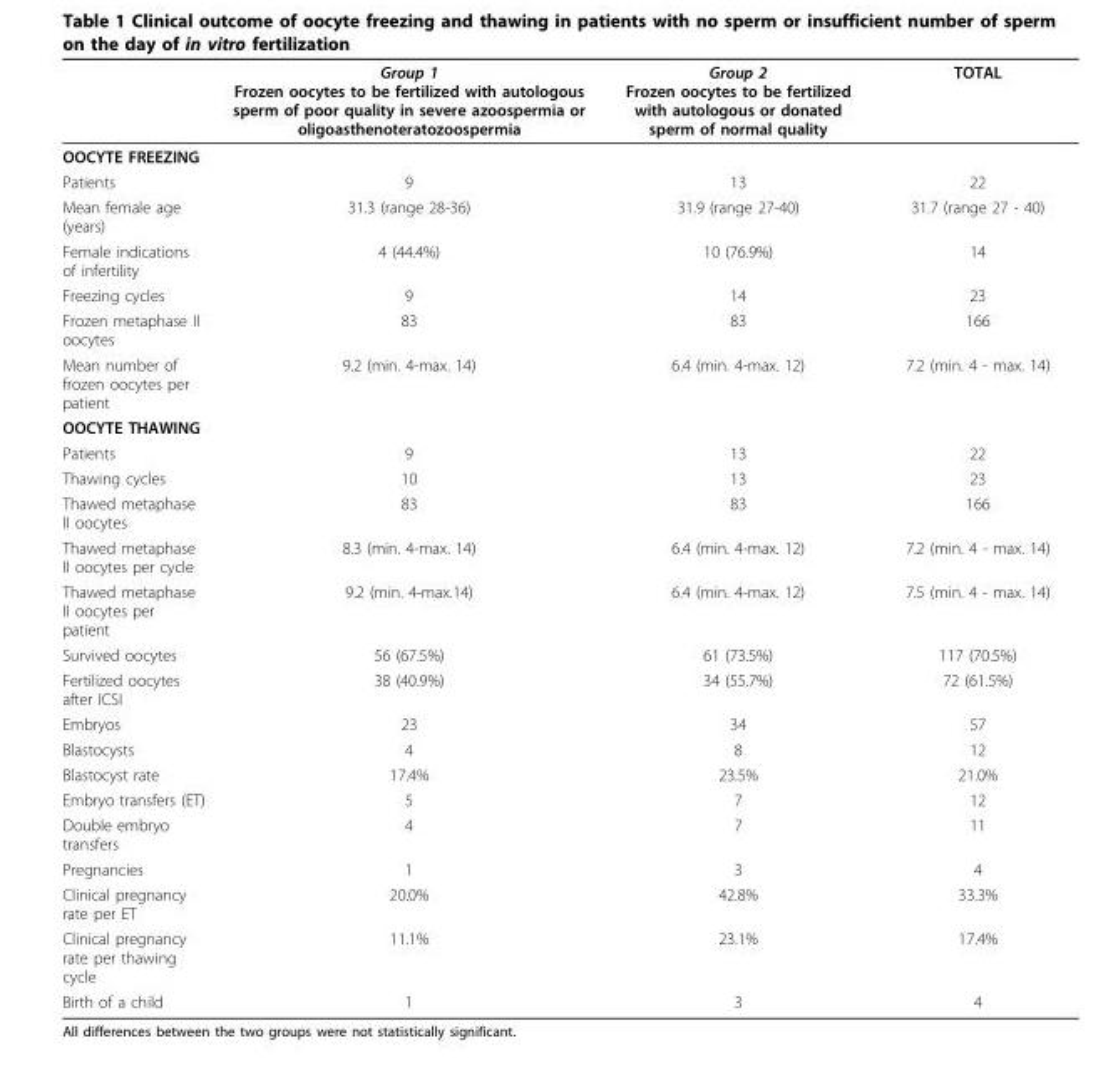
<table><thead><tr><td></td><td>Group 1 Frozen oocytes to be fertilized with autologous sperm of poor quality in severe azoospermia or oligoasthenoteratozoospermia</td><td>Group 2 Frozen oocytes to be fertilized with autologous or donated sperm of normal quality</td><td>TOTAL</td></tr></thead><tbody><tr><td colspan="4">OOCYTE FREEZING</td></tr><tr><td>Patients</td><td>9</td><td>13</td><td>22</td></tr><tr><td>Mean female age (years)</td><td>31.3 (range 28-36)</td><td>31.9 (range 27-40)</td><td>31.7 (range 27 - 40)</td></tr><tr><td>Female indications of infertility</td><td>4 (44.4%)</td><td>10 (76.9%)</td><td>14</td></tr><tr><td>Freezing cycles</td><td>9</td><td>14</td><td>23</td></tr><tr><td>Frozen metaphase II oocytes</td><td>83</td><td>83</td><td>166</td></tr><tr><td>Mean number of frozen oocytes per patient</td><td>9.2 (min. 4-max. 14)</td><td>6.4 (min. 4-max. 12)</td><td>7.2 (min. 4 - max. 14)</td></tr><tr><td colspan="4">OOCYTE THAWING</td></tr><tr><td>Patients</td><td>9</td><td>13</td><td>22</td></tr><tr><td>Thawing cycles</td><td>10</td><td>13</td><td>23</td></tr><tr><td>Thawed metaphase II oocytes</td><td>83</td><td>83</td><td>166</td></tr><tr><td>Thawed metaphase II oocytes per cycle</td><td>8.3 (min. 4-max. 14)</td><td>6.4 (min. 4-max. 12)</td><td>7.2 (min. 4 - max. 14)</td></tr><tr><td>Thawed metaphase II oocytes per patient</td><td>9.2 (min. 4-max.14)</td><td>6.4 (min. 4-max. 12)</td><td>7.5 (min. 4 - max. 14)</td></tr><tr><td>Survived oocytes</td><td>56 (67.5%)</td><td>61 (73.5%)</td><td>117 (70.5%)</td></tr><tr><td>Fertilized oocytes after ICSI</td><td>38 (40.9%)</td><td>34 (55.7%)</td><td>72 (61.5%)</td></tr><tr><td>Embryos</td><td>23</td><td>34</td><td>57</td></tr><tr><td>Blastocysts</td><td>4</td><td>8</td><td>12</td></tr><tr><td>Blastocyst rate</td><td>17.4%</td><td>23.5%</td><td>21.0%</td></tr><tr><td>Embryo transfers (ET)</td><td>5</td><td>7</td><td>12</td></tr><tr><td>Double embryo transfers</td><td>4</td><td>7</td><td>11</td></tr><tr><td>Pregnancies</td><td>1</td><td>3</td><td>4</td></tr><tr><td>Clinical pregnancy rate per ET</td><td>20.0%</td><td>42.8%</td><td>33.3%</td></tr><tr><td>Clinical pregnancy rate per thawing cycle</td><td>11.1%</td><td>23.1%</td><td>17.4%</td></tr><tr><td>Birth of a child</td><td>1</td><td>3</td><td>4</td></tr></tbody></table>